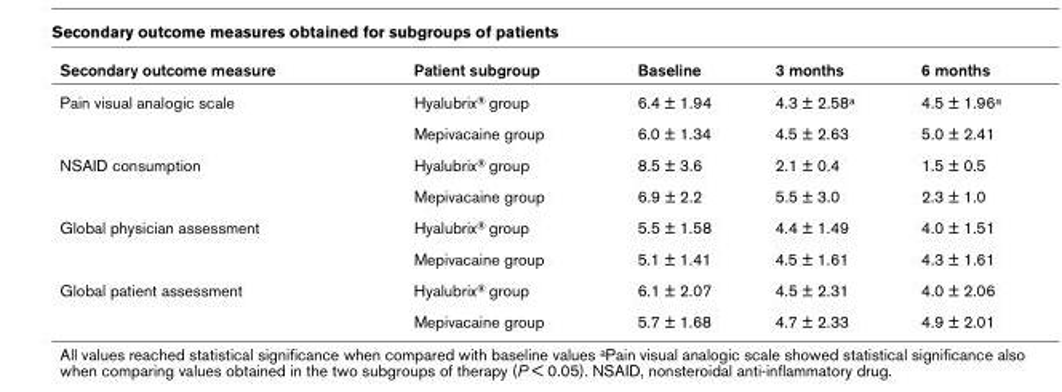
<table><thead><tr><td>Secondary outcome measure</td><td>Patient subgroup</td><td>Baseline</td><td>3 months</td><td>6 months</td></tr></thead><tbody><tr><td rowspan="2">Pain visual analogic scale</td><td>Hyalubrix<sup>®</sup> group</td><td>6.4 ± 1.94</td><td>4.3 ± 2.58<sup>a</sup></td><td>4.5 ± 1.96<sup>a</sup></td></tr><tr><td>Mepivacaine group</td><td>6.0 ± 1.34</td><td>4.5 ± 2.63</td><td>5.0 ± 2.41</td></tr><tr><td rowspan="2">NSAID consumption</td><td>Hyalubrix<sup>®</sup> group</td><td>8.5 ± 3.6</td><td>2.1 ± 0.4</td><td>1.5 ± 0.5</td></tr><tr><td>Mepivacaine group</td><td>6.9 ± 2.2</td><td>5.5 ± 3.0</td><td>2.3 ± 1.0</td></tr><tr><td rowspan="2">Global physician assessment</td><td>Hyalubrix<sup>®</sup> group</td><td>5.5 ± 1.58</td><td>4.4 ± 1.49</td><td>4.0 ± 1.51</td></tr><tr><td>Mepivacaine group</td><td>5.1 ± 1.41</td><td>4.5 ± 1.61</td><td>4.3 ± 1.61</td></tr><tr><td rowspan="2">Global patient assessment</td><td>Hyalubrix<sup>®</sup> group</td><td>6.1 ± 2.07</td><td>4.5 ± 2.31</td><td>4.0 ± 2.06</td></tr><tr><td>Mepivacaine group</td><td>5.7 ± 1.68</td><td>4.7 ± 2.33</td><td>4.9 ± 2.01</td></tr></tbody></table>